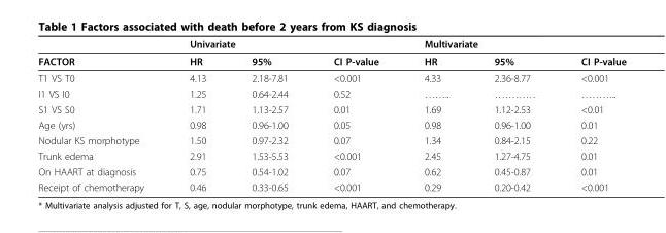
<table><thead><tr><td rowspan="2">FACTOR</td><td colspan="3">Univariate</td><td colspan="3">Multivariate</td></tr><tr><td>HR</td><td>95%</td><td>CI P-value</td><td>HR</td><td>95%</td><td>CI P-value</td></tr></thead><tbody><tr><td>T1 VS T0</td><td>4.13</td><td>2.18-7.81</td><td>&lt;0.001</td><td>4.33</td><td>2.36-8.77</td><td>&lt;0.001</td></tr><tr><td>I1 VS I0</td><td>1.25</td><td>0.64-2.44</td><td>0.52</td><td>……..</td><td>…………</td><td>………..</td></tr><tr><td>S1 VS S0</td><td>1.71</td><td>1.13-2.57</td><td>0.01</td><td>1.69</td><td>1.12-2.53</td><td>&lt;0.01</td></tr><tr><td>Age (yrs)</td><td>0.98</td><td>0.96-1.00</td><td>0.05</td><td>0.98</td><td>0.96-1.00</td><td>0.01</td></tr><tr><td>Nodular KS morphotype</td><td>1.50</td><td>0.97-2.32</td><td>0.07</td><td>1.34</td><td>0.84-2.15</td><td>0.22</td></tr><tr><td>Trunk edema</td><td>2.91</td><td>1.53-5.53</td><td>&lt;0.001</td><td>2.45</td><td>1.27-4.75</td><td>0.01</td></tr><tr><td>On HAART at diagnosis</td><td>0.75</td><td>0.54-1.02</td><td>0.07</td><td>0.62</td><td>0.45-0.87</td><td>0.01</td></tr><tr><td>Receipt of chemotherapy</td><td>0.46</td><td>0.33-0.65</td><td>&lt;0.001</td><td>0.29</td><td>0.20-0.42</td><td>&lt;0.001</td></tr></tbody></table>